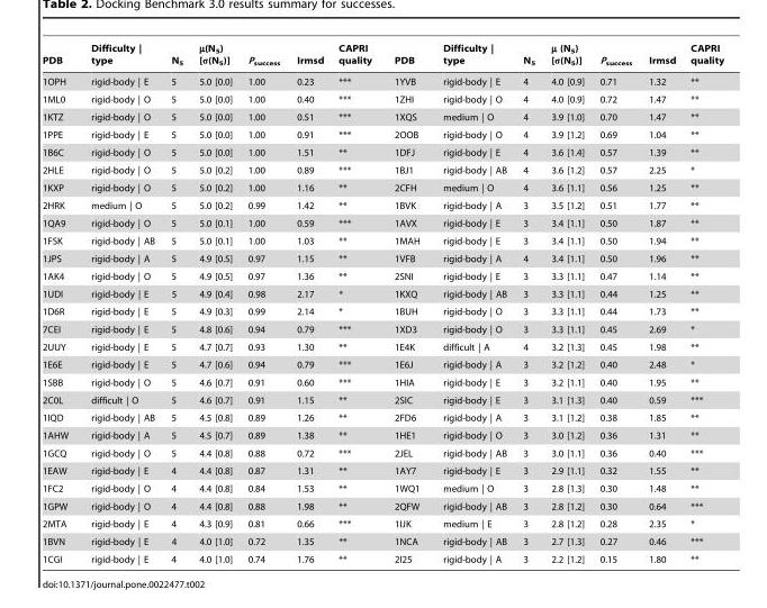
<table><thead><tr><td>PDB</td><td>Difficulty | type</td><td>N<sub>5</sub></td><td>µ(N<sub>5</sub>) [σ(N<sub>5</sub>)]</td><td>P<sub>success</sub></td><td>Irmsd</td><td>CAPRI quality</td><td>PDB</td><td>Difficulty | type</td><td>N<sub>5</sub></td><td>µ (N<sub>5</sub>) [σ(N<sub>5</sub>)]</td><td>P<sub>success</sub></td><td>Irmsd</td><td>CAPRI quality</td></tr></thead><tbody><tr><td>1OPH</td><td>rigid-body | E</td><td>5</td><td>5.0 [0.0]</td><td>1.00</td><td>0.23</td><td>***</td><td>1YVB</td><td>rigid-body | E</td><td>4</td><td>4.0 [0.9]</td><td>0.71</td><td>1.32</td><td>**</td></tr><tr><td>1ML0</td><td>rigid-body | O</td><td>5</td><td>5.0 [0.0]</td><td>1.00</td><td>0.40</td><td>***</td><td>1ZHI</td><td>rigid-body | O</td><td>4</td><td>4.0 [0.9]</td><td>0.72</td><td>1.47</td><td>**</td></tr><tr><td>1KTZ</td><td>rigid-body | O</td><td>5</td><td>5.0 [0.0]</td><td>1.00</td><td>0.51</td><td>***</td><td>1XQS</td><td>medium | O</td><td>4</td><td>3.9 [1.0]</td><td>0.70</td><td>1.47</td><td>**</td></tr><tr><td>1PPE</td><td>rigid-body | E</td><td>5</td><td>5.0 [0.0]</td><td>1.00</td><td>0.91</td><td>***</td><td>2OOB</td><td>rigid-body | O</td><td>4</td><td>3.9 [1.2]</td><td>0.69</td><td>1.04</td><td>**</td></tr><tr><td>1B6C</td><td>rigid-body | O</td><td>5</td><td>5.0 [0.0]</td><td>1.00</td><td>1.51</td><td>**</td><td>1DFJ</td><td>rigid-body | E</td><td>4</td><td>3.6 [1.4]</td><td>0.57</td><td>1.39</td><td>**</td></tr><tr><td>2HLE</td><td>rigid-body | O</td><td>5</td><td>5.0 [0.2]</td><td>1.00</td><td>0.89</td><td>***</td><td>1BJ1</td><td>rigid-body | AB</td><td>4</td><td>3.6 [1.2]</td><td>0.57</td><td>2.25</td><td>*</td></tr><tr><td>1KXP</td><td>rigid-body | O</td><td>5</td><td>5.0 [0.2]</td><td>1.00</td><td>1.16</td><td>**</td><td>2CFH</td><td>medium | O</td><td>4</td><td>3.6 [1.1]</td><td>0.56</td><td>1.25</td><td>**</td></tr><tr><td>2HRK</td><td>medium | O</td><td>5</td><td>5.0 [0.2]</td><td>0.99</td><td>1.42</td><td>**</td><td>1BVK</td><td>rigid-body | A</td><td>3</td><td>3.5 [1.2]</td><td>0.51</td><td>1.77</td><td>**</td></tr><tr><td>1QA9</td><td>rigid-body | O</td><td>5</td><td>5.0 [0.1]</td><td>1.00</td><td>0.59</td><td>***</td><td>1AVX</td><td>rigid-body | E</td><td>3</td><td>3.4 [1.1]</td><td>0.50</td><td>1.87</td><td>**</td></tr><tr><td>1FSK</td><td>rigid-body | AB</td><td>5</td><td>5.0 [0.1]</td><td>1.00</td><td>1.03</td><td>**</td><td>1MAH</td><td>rigid-body | E</td><td>3</td><td>3.4 [1.1]</td><td>0.50</td><td>1.94</td><td>**</td></tr><tr><td>1JPS</td><td>rigid-body | A</td><td>5</td><td>4.9 [0.5]</td><td>0.97</td><td>1.15</td><td>**</td><td>1VFB</td><td>rigid-body | A</td><td>4</td><td>3.4 [1.1]</td><td>0.50</td><td>1.96</td><td>**</td></tr><tr><td>1AK4</td><td>rigid-body | O</td><td>5</td><td>4.9 [0.5]</td><td>0.97</td><td>1.36</td><td>**</td><td>2SNI</td><td>rigid-body | E</td><td>3</td><td>3.3 [1.1]</td><td>0.47</td><td>1.14</td><td>**</td></tr><tr><td>1UDI</td><td>rigid-body | E</td><td>5</td><td>4.9 [0.4]</td><td>0.98</td><td>2.17</td><td>*</td><td>1KXQ</td><td>rigid-body | AB</td><td>3</td><td>3.3 [1.1]</td><td>0.44</td><td>1.25</td><td>**</td></tr><tr><td>1D6R</td><td>rigid-body | E</td><td>5</td><td>4.9 [0.3]</td><td>0.99</td><td>2.14</td><td>*</td><td>1BUH</td><td>rigid-body | O</td><td>3</td><td>3.3 [1.1]</td><td>0.44</td><td>1.73</td><td>**</td></tr><tr><td>7CEI</td><td>rigid-body | E</td><td>5</td><td>4.8 [0.6]</td><td>0.94</td><td>0.79</td><td>***</td><td>1XD3</td><td>rigid-body | O</td><td>3</td><td>3.3 [1.1]</td><td>0.45</td><td>2.69</td><td>*</td></tr><tr><td>2UUY</td><td>rigid-body | E</td><td>5</td><td>4.7 [0.7]</td><td>0.93</td><td>1.30</td><td>**</td><td>1E4K</td><td>difficult | A</td><td>4</td><td>3.2 [1.3]</td><td>0.45</td><td>1.98</td><td>**</td></tr><tr><td>1E6E</td><td>rigid-body | E</td><td>5</td><td>4.7 [0.6]</td><td>0.94</td><td>0.79</td><td>***</td><td>1E6J</td><td>rigid-body | A</td><td>3</td><td>3.2 [1.2]</td><td>0.40</td><td>2.48</td><td>*</td></tr><tr><td>1SBB</td><td>rigid-body | O</td><td>5</td><td>4.6 [0.7]</td><td>0.91</td><td>0.60</td><td>***</td><td>1HIA</td><td>rigid-body | E</td><td>3</td><td>3.2 [1.1]</td><td>0.40</td><td>1.95</td><td>**</td></tr><tr><td>2C0L</td><td>difficult | O</td><td>5</td><td>4.6 [0.7]</td><td>0.91</td><td>1.15</td><td>**</td><td>2SIC</td><td>rigid-body | E</td><td>3</td><td>3.1 [1.3]</td><td>0.40</td><td>0.59</td><td>***</td></tr><tr><td>1IQD</td><td>rigid-body | AB</td><td>5</td><td>4.5 [0.8]</td><td>0.89</td><td>1.26</td><td>**</td><td>2FD6</td><td>rigid-body | A</td><td>3</td><td>3.1 [1.2]</td><td>0.38</td><td>1.85</td><td>**</td></tr><tr><td>1AHW</td><td>rigid-body | A</td><td>5</td><td>4.5 [0.7]</td><td>0.89</td><td>1.38</td><td>**</td><td>1HE1</td><td>rigid-body | O</td><td>3</td><td>3.0 [1.2]</td><td>0.36</td><td>1.31</td><td>**</td></tr><tr><td>1GCQ</td><td>rigid-body | O</td><td>5</td><td>4.4 [0.8]</td><td>0.88</td><td>0.72</td><td>***</td><td>2JEL</td><td>rigid-body | AB</td><td>3</td><td>3.0 [1.1]</td><td>0.36</td><td>0.40</td><td>***</td></tr><tr><td>1EAW</td><td>rigid-body | E</td><td>4</td><td>4.4 [0.8]</td><td>0.87</td><td>1.31</td><td>**</td><td>1AY7</td><td>rigid-body | E</td><td>3</td><td>2.9 [1.1]</td><td>0.32</td><td>1.55</td><td>**</td></tr><tr><td>1FC2</td><td>rigid-body | O</td><td>4</td><td>4.4 [0.8]</td><td>0.84</td><td>1.53</td><td>**</td><td>1WQ1</td><td>medium | O</td><td>3</td><td>2.8 [1.3]</td><td>0.30</td><td>1.48</td><td>**</td></tr><tr><td>1GPW</td><td>rigid-body | O</td><td>4</td><td>4.4 [0.8]</td><td>0.88</td><td>1.98</td><td>**</td><td>2QFW</td><td>rigid-body | AB</td><td>3</td><td>2.8 [1.2]</td><td>0.30</td><td>0.64</td><td>***</td></tr><tr><td>2MTA</td><td>rigid-body | E</td><td>4</td><td>4.3 [0.9]</td><td>0.81</td><td>0.66</td><td>***</td><td>1IJK</td><td>medium | E</td><td>3</td><td>2.8 [1.2]</td><td>0.28</td><td>2.35</td><td>*</td></tr><tr><td>1BVN</td><td>rigid-body | E</td><td>4</td><td>4.0 [1.0]</td><td>0.72</td><td>1.35</td><td>**</td><td>1NCA</td><td>rigid-body | AB</td><td>3</td><td>2.7 [1.3]</td><td>0.27</td><td>0.46</td><td>***</td></tr><tr><td>1CGI</td><td>rigid-body | E</td><td>4</td><td>4.0 [1.0]</td><td>0.74</td><td>1.76</td><td>**</td><td>2I25</td><td>rigid-body | A</td><td>3</td><td>2.2 [1.2]</td><td>0.15</td><td>1.80</td><td>**</td></tr></tbody></table>